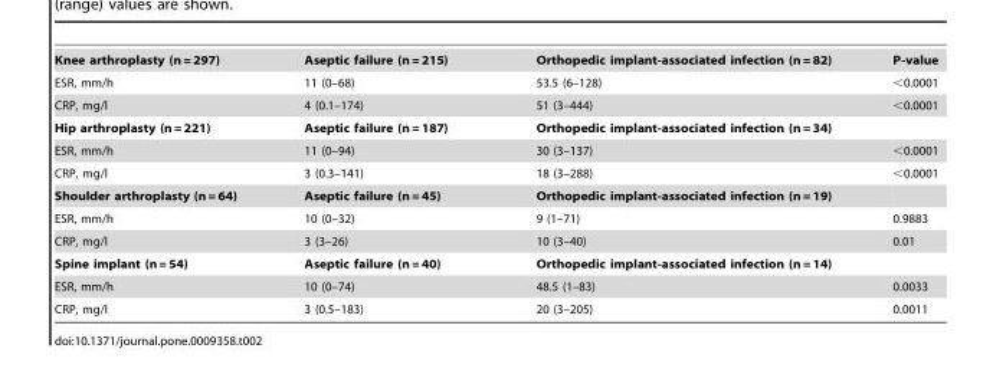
<table><tbody><tr><td>Knee arthroplasty (n = 297)</td><td>Aseptic failure (n = 215)</td><td>Orthopedic implant-associated infection (n = 82)</td><td>P-value</td></tr><tr><td>ESR, mm/h</td><td>11 (0–68)</td><td>53.5 (6–128)</td><td>&lt;0.0001</td></tr><tr><td>CRP, mg/l</td><td>4 (0.1–174)</td><td>51 (3–444)</td><td>&lt;0.0001</td></tr><tr><td>Hip arthroplasty (n = 221)</td><td>Aseptic failure (n = 187)</td><td>Orthopedic implant-associated infection (n = 34)</td><td></td></tr><tr><td>ESR, mm/h</td><td>11 (0–94)</td><td>30 (3–137)</td><td>&lt;0.0001</td></tr><tr><td>CRP, mg/l</td><td>3 (0.3–141)</td><td>18 (3–288)</td><td>&lt;0.0001</td></tr><tr><td>Shoulder arthroplasty (n = 64)</td><td>Aseptic failure (n = 45)</td><td>Orthopedic implant-associated infection (n = 19)</td><td></td></tr><tr><td>ESR, mm/h</td><td>10 (0–32)</td><td>9 (1–71)</td><td>0.9883</td></tr><tr><td>CRP, mg/l</td><td>3 (3–26)</td><td>10 (3–40)</td><td>0.01</td></tr><tr><td>Spine implant (n = 54)</td><td>Aseptic failure (n = 40)</td><td>Orthopedic implant-associated infection (n = 14)</td><td></td></tr><tr><td>ESR, mm/h</td><td>10 (0–74)</td><td>48.5 (1–83)</td><td>0.0033</td></tr><tr><td>CRP, mg/l</td><td>3 (0.5–183)</td><td>20 (3–205)</td><td>0.0011</td></tr></tbody></table>